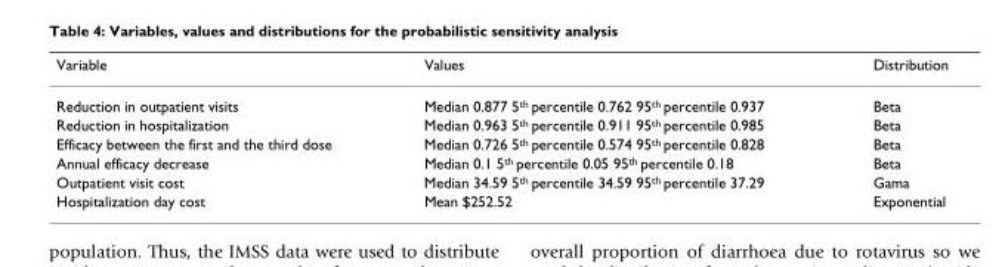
<table><thead><tr><td>Variable</td><td>Values</td><td>Distribution</td></tr></thead><tbody><tr><td>Reduction in outpatient visits</td><td>Median 0.877 5<sup>th</sup> percentile 0.762 95<sup>th</sup> percentile 0.937</td><td>Beta</td></tr><tr><td>Reduction in hospitalization</td><td>Median 0.963 5<sup>th</sup> percentile 0.911 95<sup>th</sup> percentile 0.985</td><td>Beta</td></tr><tr><td>Efficacy between the first and the third dose</td><td>Median 0.726 5<sup>th</sup> percentile 0.574 95<sup>th</sup> percentile 0.828</td><td>Beta</td></tr><tr><td>Annual efficacy decrease</td><td>Median 0.1 5<sup>th</sup> percentile 0.05 95<sup>th</sup> percentile 0.18</td><td>Beta</td></tr><tr><td>Outpatient visit cost</td><td>Median 34.59 5<sup>th</sup> percentile 34.59 95<sup>th</sup> percentile 37.29</td><td>Gama</td></tr><tr><td>Hospitalization day cost</td><td>Mean $252.52</td><td>Exponential</td></tr></tbody></table>